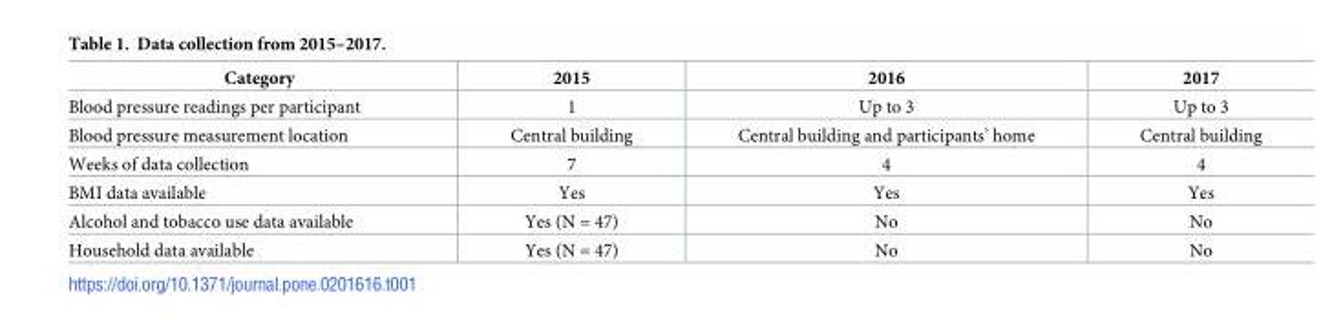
<table><thead><tr><td>Category</td><td>2015</td><td>2016</td><td>2017</td></tr></thead><tbody><tr><td>Blood pressure readings per participant</td><td>1</td><td>Up to 3</td><td>Up to 3</td></tr><tr><td>Blood pressure measurement location</td><td>Central building</td><td>Central building and participants’ home</td><td>Central building</td></tr><tr><td>Weeks of data collection</td><td>7</td><td>4</td><td>4</td></tr><tr><td>BMI data available</td><td>Yes</td><td>Yes</td><td>Yes</td></tr><tr><td>Alcohol and tobacco use data available</td><td>Yes (N = 47)</td><td>No</td><td>No</td></tr><tr><td>Household data available</td><td>Yes (N = 47)</td><td>No</td><td>No</td></tr></tbody></table>